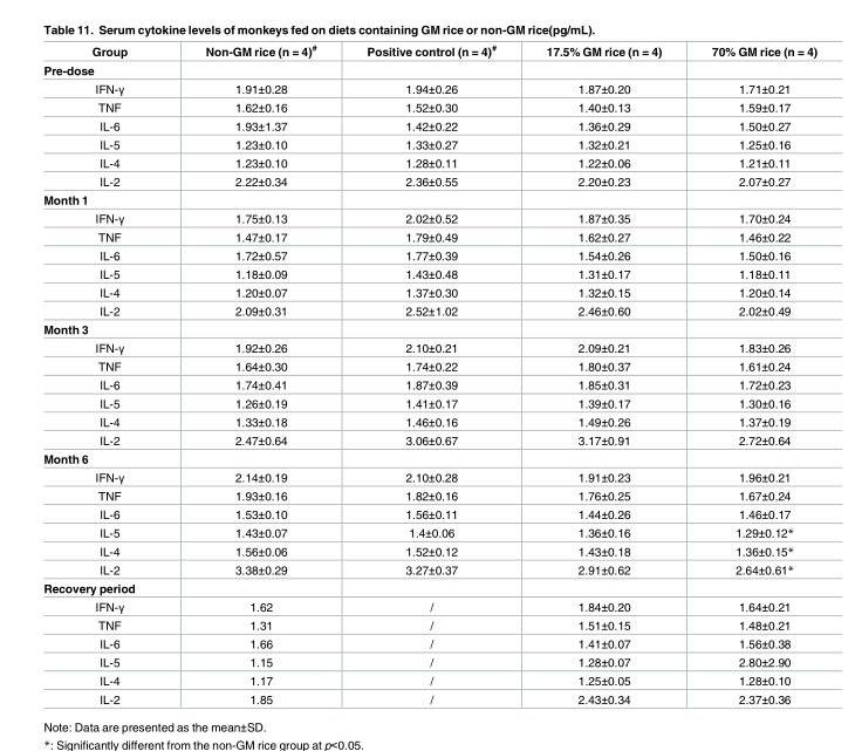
<table><thead><tr><td>Group</td><td>Non-GM rice (n = 4)<sup>#</sup></td><td>Positive control (n = 4)<sup>#</sup></td><td>17.5% GM rice (n = 4)</td><td>70% GM rice (n = 4)</td></tr></thead><tbody><tr><td colspan="5">Pre-dose</td></tr><tr><td>IFN-γ</td><td>1.91±0.28</td><td>1.94±0.26</td><td>1.87±0.20</td><td>1.71±0.21</td></tr><tr><td>TNF</td><td>1.62±0.16</td><td>1.52±0.30</td><td>1.40±0.13</td><td>1.59±0.17</td></tr><tr><td>IL-6</td><td>1.93±1.37</td><td>1.42±0.22</td><td>1.36±0.29</td><td>1.50±0.27</td></tr><tr><td>IL-5</td><td>1.23±0.10</td><td>1.33±0.27</td><td>1.32±0.21</td><td>1.25±0.16</td></tr><tr><td>IL-4</td><td>1.23±0.10</td><td>1.28±0.11</td><td>1.22±0.06</td><td>1.21±0.11</td></tr><tr><td>IL-2</td><td>2.22±0.34</td><td>2.36±0.55</td><td>2.20±0.23</td><td>2.07±0.27</td></tr><tr><td colspan="5">Month 1</td></tr><tr><td>IFN-γ</td><td>1.75±0.13</td><td>2.02±0.52</td><td>1.87±0.35</td><td>1.70±0.24</td></tr><tr><td>TNF</td><td>1.47±0.17</td><td>1.79±0.49</td><td>1.62±0.27</td><td>1.46±0.22</td></tr><tr><td>IL-6</td><td>1.72±0.57</td><td>1.77±0.39</td><td>1.54±0.26</td><td>1.50±0.16</td></tr><tr><td>IL-5</td><td>1.18±0.09</td><td>1.43±0.48</td><td>1.31±0.17</td><td>1.18±0.11</td></tr><tr><td>IL-4</td><td>1.20±0.07</td><td>1.37±0.30</td><td>1.32±0.15</td><td>1.20±0.14</td></tr><tr><td>IL-2</td><td>2.09±0.31</td><td>2.52±1.02</td><td>2.46±0.60</td><td>2.02±0.49</td></tr><tr><td colspan="5">Month 3</td></tr><tr><td>IFN-γ</td><td>1.92±0.26</td><td>2.10±0.21</td><td>2.09±0.21</td><td>1.83±0.26</td></tr><tr><td>TNF</td><td>1.64±0.30</td><td>1.74±0.22</td><td>1.80±0.37</td><td>1.61±0.24</td></tr><tr><td>IL-6</td><td>1.74±0.41</td><td>1.87±0.39</td><td>1.85±0.31</td><td>1.72±0.23</td></tr><tr><td>IL-5</td><td>1.26±0.19</td><td>1.41±0.17</td><td>1.39±0.17</td><td>1.30±0.16</td></tr><tr><td>IL-4</td><td>1.33±0.18</td><td>1.46±0.16</td><td>1.49±0.26</td><td>1.37±0.19</td></tr><tr><td>IL-2</td><td>2.47±0.64</td><td>3.06±0.67</td><td>3.17±0.91</td><td>2.72±0.64</td></tr><tr><td colspan="5">Month 6</td></tr><tr><td>IFN-γ</td><td>2.14±0.19</td><td>2.10±0.28</td><td>1.91±0.23</td><td>1.96±0.21</td></tr><tr><td>TNF</td><td>1.93±0.16</td><td>1.82±0.16</td><td>1.76±0.25</td><td>1.67±0.24</td></tr><tr><td>IL-6</td><td>1.53±0.10</td><td>1.56±0.11</td><td>1.44±0.26</td><td>1.46±0.17</td></tr><tr><td>IL-5</td><td>1.43±0.07</td><td>1.4±0.06</td><td>1.36±0.16</td><td>1.29±0.12*</td></tr><tr><td>IL-4</td><td>1.56±0.06</td><td>1.52±0.12</td><td>1.43±0.18</td><td>1.36±0.15*</td></tr><tr><td>IL-2</td><td>3.38±0.29</td><td>3.27±0.37</td><td>2.91±0.62</td><td>2.64±0.61*</td></tr><tr><td colspan="5">Recovery period</td></tr><tr><td>IFN-γ</td><td>1.62</td><td>/</td><td>1.84±0.20</td><td>1.64±0.21</td></tr><tr><td>TNF</td><td>1.31</td><td>/</td><td>1.51±0.15</td><td>1.48±0.21</td></tr><tr><td>IL-6</td><td>1.66</td><td>/</td><td>1.41±0.07</td><td>1.56±0.38</td></tr><tr><td>IL-5</td><td>1.15</td><td>/</td><td>1.28±0.07</td><td>2.80±2.90</td></tr><tr><td>IL-4</td><td>1.17</td><td>/</td><td>1.25±0.05</td><td>1.28±0.10</td></tr><tr><td>IL-2</td><td>1.85</td><td>/</td><td>2.43±0.34</td><td>2.37±0.36</td></tr></tbody></table>